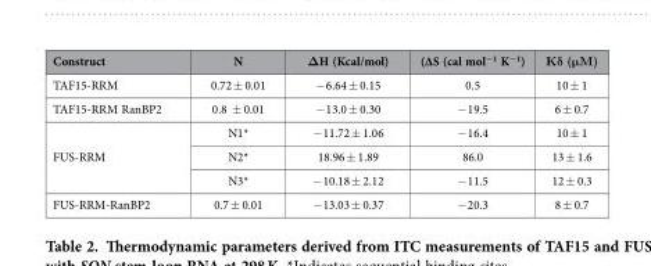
<table><thead><tr><td>Construct</td><td>N</td><td>ΔH (Kcal/mol)</td><td>(ΔS (cal mol−1 K−1)</td><td>Kd (μM)</td></tr></thead><tbody><tr><td>TAF15-RRM</td><td>0.72 ± 0.01</td><td>− 6.64 ± 0.15</td><td>0.5</td><td>10 ± 1</td></tr><tr><td>TAF15-RRM RanBP2</td><td>0.8 ± 0.01</td><td>− 13.0 ± 0.30</td><td>− 19.5</td><td>6 ± 0.7</td></tr><tr><td rowspan="3">FUS-RRM</td><td>N1*</td><td>− 11.72 ± 1.06</td><td>− 16.4</td><td>10 ± 1</td></tr><tr><td>N2*</td><td>18.96 ± 1.89</td><td>86.0</td><td>13 ± 1.6</td></tr><tr><td>N3*</td><td>− 10.18 ± 2.12</td><td>− 11.5</td><td>12 ± 0.3</td></tr><tr><td>FUS-RRM-RanBP2</td><td>0.7 ± 0.01</td><td>− 13.03 ± 0.37</td><td>− 20.3</td><td>8 ± 0.7</td></tr></tbody></table>